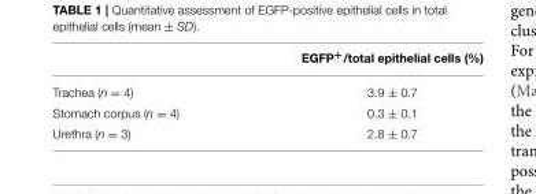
<table><thead><tr><td></td><td>EGFP<sup>+</sup>/total epithelial cells (%)</td></tr></thead><tbody><tr><td>Trachea (n = 4)</td><td>3.9 ± 0.7</td></tr><tr><td>Stomach corpus (n = 4)</td><td>0.3 ± 0.1</td></tr><tr><td>Urethra (n = 3)</td><td>2.8 ± 0.7</td></tr></tbody></table>